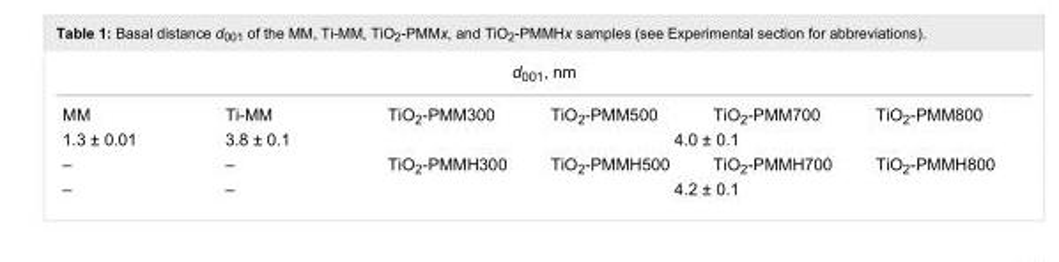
<table><tbody><tr><td colspan="6">d<sub>001</sub>, nm</td></tr><tr><td>MM</td><td>Ti-MM</td><td>TiO<sub>2</sub>-PMM300</td><td>TiO<sub>2</sub>-PMM500</td><td>TiO<sub>2</sub>-PMM700</td><td>TiO<sub>2</sub>-PMM800</td></tr><tr><td>1.3 ± 0.01</td><td>3.8 ± 0.1</td><td colspan="4">4.0 ± 0.1</td></tr><tr><td>–</td><td>–</td><td>TiO<sub>2</sub>-PMMH300</td><td>TiO<sub>2</sub>-PMMH500</td><td>TiO<sub>2</sub>-PMMH700</td><td>TiO<sub>2</sub>-PMMH800</td></tr><tr><td>–</td><td>–</td><td colspan="4">4.2 ± 0.1</td></tr></tbody></table>